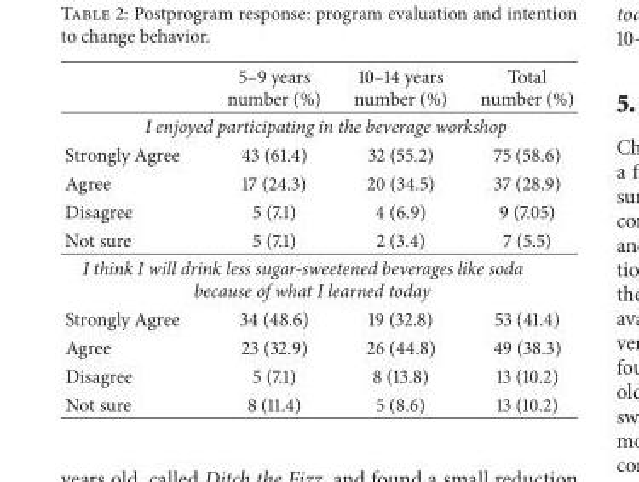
<table><thead><tr><td></td><td>5–9 years number (%)</td><td>10–14 years number (%)</td><td>Total number (%)</td></tr></thead><tbody><tr><td colspan="4">I enjoyed participating in the beverage workshop</td></tr><tr><td>Strongly Agree</td><td>43 (61.4)</td><td>32 (55.2)</td><td>75 (58.6)</td></tr><tr><td>Agree</td><td>17 (24.3)</td><td>20 (34.5)</td><td>37 (28.9)</td></tr><tr><td>Disagree</td><td>5 (7.1)</td><td>4 (6.9)</td><td>9 (7.05)</td></tr><tr><td>Not sure</td><td>5 (7.1)</td><td>2 (3.4)</td><td>7 (5.5)</td></tr><tr><td colspan="4">I think I will drink less sugar-sweetened beverages like soda because of what I learned today</td></tr><tr><td>Strongly Agree</td><td>34 (48.6)</td><td>19 (32.8)</td><td>53 (41.4)</td></tr><tr><td>Agree</td><td>23 (32.9)</td><td>26 (44.8)</td><td>49 (38.3)</td></tr><tr><td>Disagree</td><td>5 (7.1)</td><td>8 (13.8)</td><td>13 (10.2)</td></tr><tr><td>Not sure</td><td>8 (11.4)</td><td>5 (8.6)</td><td>13 (10.2)</td></tr></tbody></table>